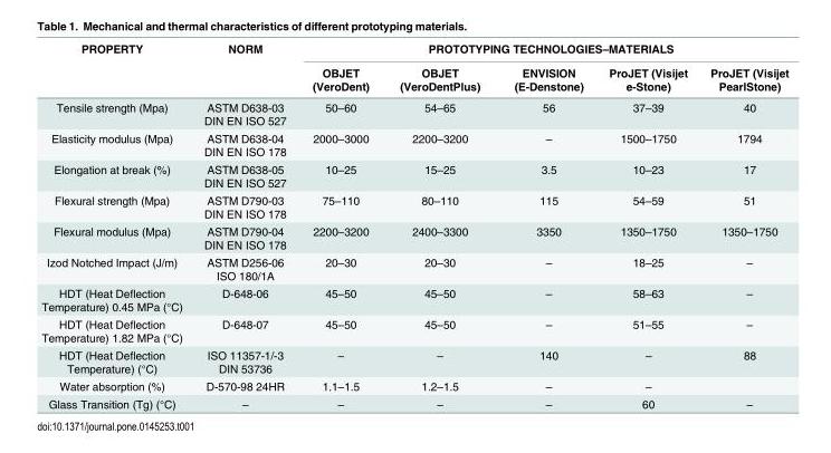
<table><thead><tr><td rowspan="2">PROPERTY</td><td rowspan="2">NORM</td><td colspan="5">PROTOTYPING TECHNOLOGIES–MATERIALS</td></tr><tr><td>OBJET (VeroDent)</td><td>OBJET (VeroDentPlus)</td><td>ENVISION (E-Denstone)</td><td>ProJET (Visijet e-Stone)</td><td>ProJET (Visijet PearlStone)</td></tr></thead><tbody><tr><td>Tensile strength (Mpa)</td><td>ASTM D638-03 DIN EN ISO 527</td><td>50–60</td><td>54–65</td><td>56</td><td>37–39</td><td>40</td></tr><tr><td>Elasticity modulus (Mpa)</td><td>ASTM D638-04 DIN EN ISO 178</td><td>2000–3000</td><td>2200–3200</td><td>–</td><td>1500–1750</td><td>1794</td></tr><tr><td>Elongation at break (%)</td><td>ASTM D638-05 DIN EN ISO 527</td><td>10–25</td><td>15–25</td><td>3.5</td><td>10–23</td><td>17</td></tr><tr><td>Flexural strength (Mpa)</td><td>ASTM D790-03 DIN EN ISO 178</td><td>75–110</td><td>80–110</td><td>115</td><td>54–59</td><td>51</td></tr><tr><td>Flexural modulus (Mpa)</td><td>ASTM D790-04 DIN EN ISO 178</td><td>2200–3200</td><td>2400–3300</td><td>3350</td><td>1350–1750</td><td>1350–1750</td></tr><tr><td>Izod Notched Impact (J/m)</td><td>ASTM D256-06 ISO 180/1A</td><td>20–30</td><td>20–30</td><td>–</td><td>18–25</td><td>–</td></tr><tr><td>HDT (Heat Deflection Temperature) 0.45 MPa (°C)</td><td>D-648-06</td><td>45–50</td><td>45–50</td><td>–</td><td>58–63</td><td>–</td></tr><tr><td>HDT (Heat Deflection Temperature) 1.82 MPa (°C)</td><td>D-648-07</td><td>45–50</td><td>45–50</td><td>–</td><td>51–55</td><td>–</td></tr><tr><td>HDT (Heat Deflection Temperature) (°C)</td><td>ISO 11357-1/-3 DIN 53736</td><td>–</td><td>–</td><td>140</td><td>–</td><td>88</td></tr><tr><td>Water absorption (%)</td><td>D-570-98 24HR</td><td>1.1–1.5</td><td>1.2–1.5</td><td>–</td><td>–</td><td></td></tr><tr><td>Glass Transition (Tg) (°C)</td><td>–</td><td>–</td><td>–</td><td>–</td><td>60</td><td>–</td></tr></tbody></table>